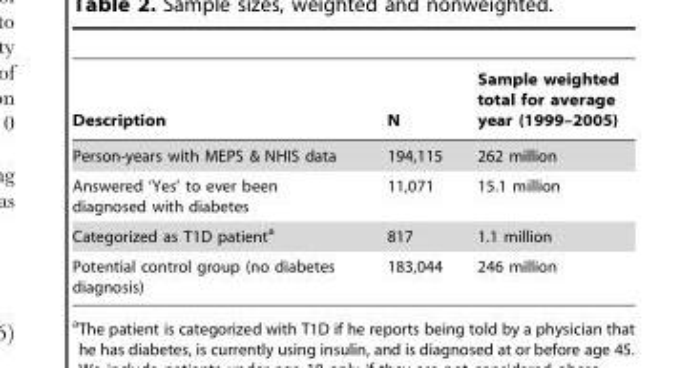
<table><thead><tr><td>Description</td><td>N</td><td>Sample weighted total for average year (1999–2005)</td></tr></thead><tbody><tr><td>Person-years with MEPS &amp; NHIS data</td><td>194,115</td><td>262 million</td></tr><tr><td>Answered ‘Yes’ to ever been diagnosed with diabetes</td><td>11,071</td><td>15.1 million</td></tr><tr><td>Categorized as T1D patient<sup>a</sup></td><td>817</td><td>1.1 million</td></tr><tr><td>Potential control group (no diabetes diagnosis)</td><td>183,044</td><td>246 million</td></tr></tbody></table>